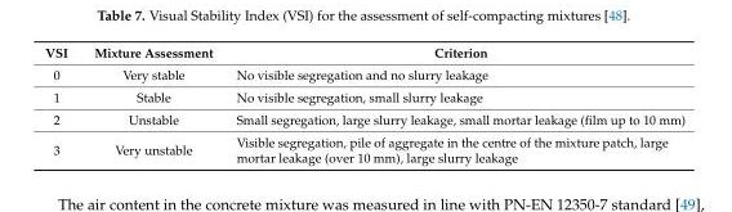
<table><thead><tr><td>VSI</td><td>Mixture Assessment</td><td>Criterion</td></tr></thead><tbody><tr><td>0</td><td>Very stable</td><td>No visible segregation and no slurry leakage</td></tr><tr><td>1</td><td>Stable</td><td>No visible segregation, small slurry leakage</td></tr><tr><td>2</td><td>Unstable</td><td>Small segregation, large slurry leakage, small mortar leakage (film up to 10 mm)</td></tr><tr><td>3</td><td>Very unstable</td><td>Visible segregation, pile of aggregate in the centre of the mixture patch, large mortar leakage (over 10 mm), large slurry leakage</td></tr></tbody></table>